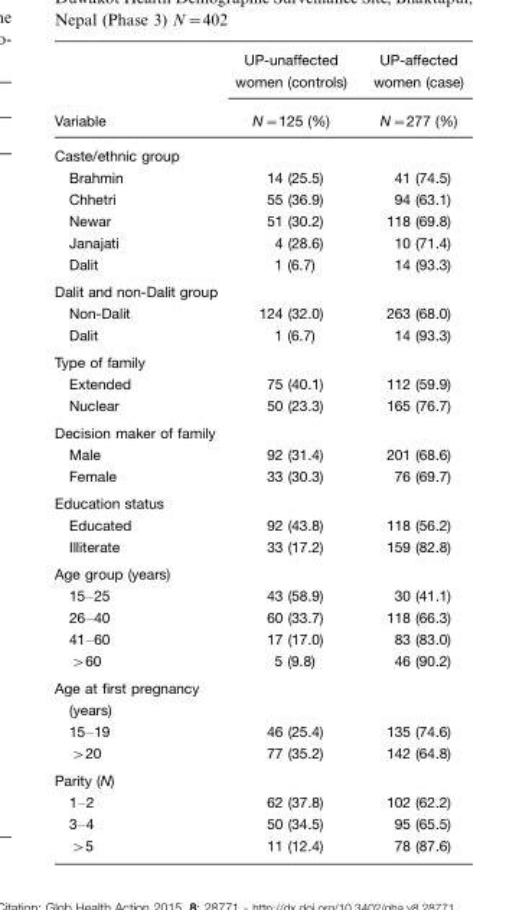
<table><thead><tr><td rowspan="2">Variable</td><td rowspan="2">UP-unaffected women (controls) N=125 (%)</td><td rowspan="2">UP-affected women (case) N=277 (%)</td></tr><tr></tr></thead><tbody><tr><td colspan="3">Caste/ethnic group</td></tr><tr><td>Brahmin</td><td>14 (25.5)</td><td>41 (74.5)</td></tr><tr><td>Chhetri</td><td>55 (36.9)</td><td>94 (63.1)</td></tr><tr><td>Newar</td><td>51 (30.2)</td><td>118 (69.8)</td></tr><tr><td>Janajati</td><td>4 (28.6)</td><td>10 (71.4)</td></tr><tr><td>Dalit</td><td>1 (6.7)</td><td>14 (93.3)</td></tr><tr><td colspan="3">Dalit and non-Dalit group</td></tr><tr><td>Non-Dalit</td><td>124 (32.0)</td><td>263 (68.0)</td></tr><tr><td>Dalit</td><td>1 (6.7)</td><td>14 (93.3)</td></tr><tr><td colspan="3">Type of family</td></tr><tr><td>Extended</td><td>75 (40.1)</td><td>112 (59.9)</td></tr><tr><td>Nuclear</td><td>50 (23.3)</td><td>165 (76.7)</td></tr><tr><td colspan="3">Decision maker of family</td></tr><tr><td>Male</td><td>92 (31.4)</td><td>201 (68.6)</td></tr><tr><td>Female</td><td>33 (30.3)</td><td>76 (69.7)</td></tr><tr><td colspan="3">Education status</td></tr><tr><td>Educated</td><td>92 (43.8)</td><td>118 (56.2)</td></tr><tr><td>Illiterate</td><td>33 (17.2)</td><td>159 (82.8)</td></tr><tr><td colspan="3">Age group (years)</td></tr><tr><td>15–25</td><td>43 (58.9)</td><td>30 (41.1)</td></tr><tr><td>26–40</td><td>60 (33.7)</td><td>118 (66.3)</td></tr><tr><td>41–60</td><td>17 (17.0)</td><td>83 (83.0)</td></tr><tr><td>&gt;60</td><td>5 (9.8)</td><td>46 (90.2)</td></tr><tr><td colspan="3">Age at first pregnancy (years)</td></tr><tr><td>15–19</td><td>46 (25.4)</td><td>135 (74.6)</td></tr><tr><td>&gt;20</td><td>77 (35.2)</td><td>142 (64.8)</td></tr><tr><td colspan="3">Parity (N)</td></tr><tr><td>1–2</td><td>62 (37.8)</td><td>102 (62.2)</td></tr><tr><td>3–4</td><td>50 (34.5)</td><td>95 (65.5)</td></tr><tr><td>&gt;5</td><td>11 (12.4)</td><td>78 (87.6)</td></tr></tbody></table>